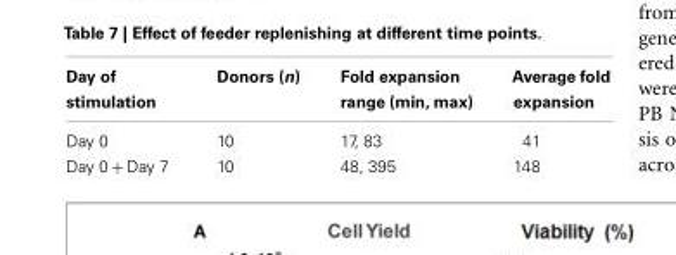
<table><thead><tr><td>Day of stimulation</td><td>Donors (n)</td><td>Fold expansion range (min, max)</td><td>Average fold expansion</td></tr></thead><tbody><tr><td>Day 0</td><td>10</td><td>17, 83</td><td>41</td></tr><tr><td>Day 0 + Day 7</td><td>10</td><td>48, 395</td><td>148</td></tr></tbody></table>